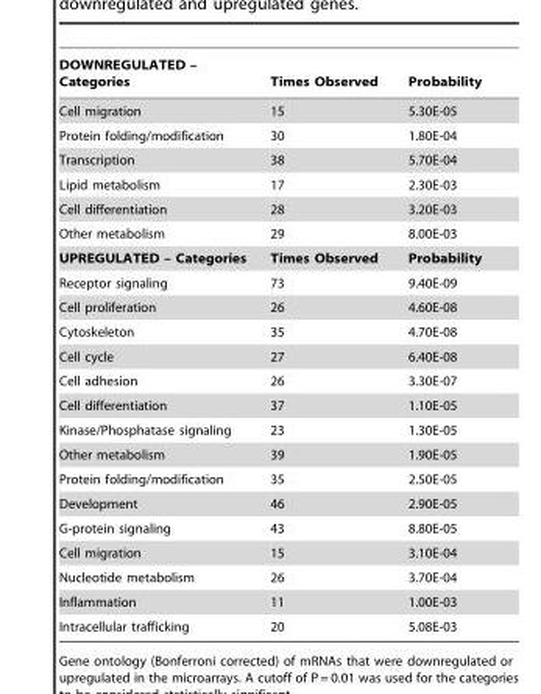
<table><thead><tr><td>DOWNREGULATED – Categories</td><td>Times Observed</td><td>Probability</td></tr></thead><tbody><tr><td>Cell migration</td><td>15</td><td>5.30E-05</td></tr><tr><td>Protein folding/modification</td><td>30</td><td>1.80E-04</td></tr><tr><td>Transcription</td><td>38</td><td>5.70E-04</td></tr><tr><td>Lipid metabolism</td><td>17</td><td>2.30E-03</td></tr><tr><td>Cell differentiation</td><td>28</td><td>3.20E-03</td></tr><tr><td>Other metabolism</td><td>29</td><td>8.00E-03</td></tr><tr><td>UPREGULATED – Categories</td><td>Times Observed</td><td>Probability</td></tr><tr><td>Receptor signaling</td><td>73</td><td>9.40E-09</td></tr><tr><td>Cell proliferation</td><td>26</td><td>4.60E-08</td></tr><tr><td>Cytoskeleton</td><td>35</td><td>4.70E-08</td></tr><tr><td>Cell cycle</td><td>27</td><td>6.40E-08</td></tr><tr><td>Cell adhesion</td><td>26</td><td>3.30E-07</td></tr><tr><td>Cell differentiation</td><td>37</td><td>1.10E-05</td></tr><tr><td>Kinase/Phosphatase signaling</td><td>23</td><td>1.30E-05</td></tr><tr><td>Other metabolism</td><td>39</td><td>1.90E-05</td></tr><tr><td>Protein folding/modification</td><td>35</td><td>2.50E-05</td></tr><tr><td>Development</td><td>46</td><td>2.90E-05</td></tr><tr><td>G-protein signaling</td><td>43</td><td>8.80E-05</td></tr><tr><td>Cell migration</td><td>15</td><td>3.10E-04</td></tr><tr><td>Nucleotide metabolism</td><td>26</td><td>3.70E-04</td></tr><tr><td>Inflammation</td><td>11</td><td>1.00E-03</td></tr><tr><td>Intracellular trafficking</td><td>20</td><td>5.08E-03</td></tr></tbody></table>